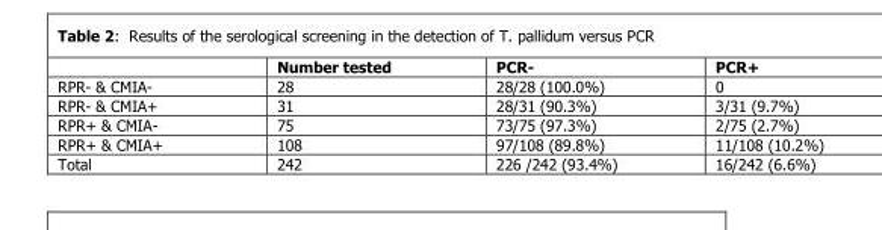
<table><thead><tr><td></td><td>Number tested</td><td>PCR-</td><td>PCR+</td></tr></thead><tbody><tr><td>RPR- &amp; CMIA-</td><td>28</td><td>28/28 (100.0%)</td><td>0</td></tr><tr><td>RPR- &amp; CMIA+</td><td>31</td><td>28/31 (90.3%)</td><td>3/31 (9.7%)</td></tr><tr><td>RPR+ &amp; CMIA-</td><td>75</td><td>73/75 (97.3%)</td><td>2/75 (2.7%)</td></tr><tr><td>RPR+ &amp; CMIA+</td><td>108</td><td>97/108 (89.8%)</td><td>11/108 (10.2%)</td></tr><tr><td>Total</td><td>242</td><td>226 /242 (93.4%)</td><td>16/242 (6.6%)</td></tr></tbody></table>